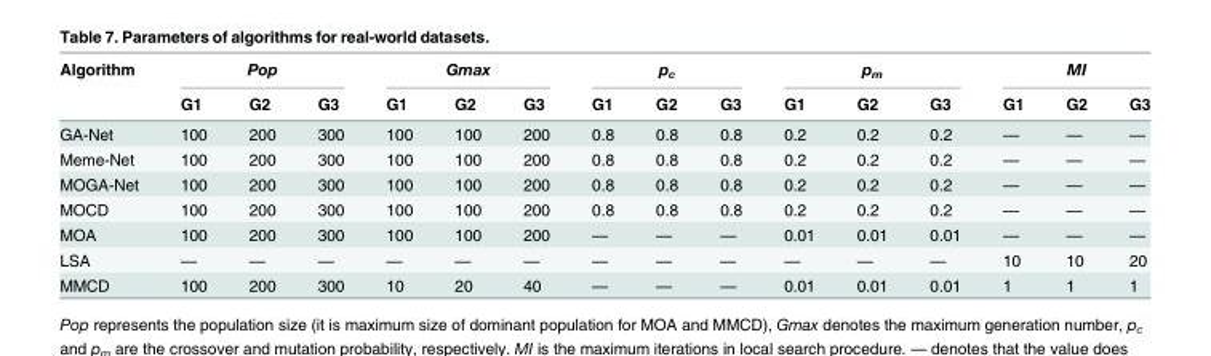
<table><thead><tr><td rowspan="2">Algorithm</td><td colspan="3">Pop</td><td colspan="3">Gmax</td><td colspan="3">p<sub>c</sub></td><td colspan="3">p<sub>m</sub></td><td colspan="3">MI</td></tr><tr><td>G1</td><td>G2</td><td>G3</td><td>G1</td><td>G2</td><td>G3</td><td>G1</td><td>G2</td><td>G3</td><td>G1</td><td>G2</td><td>G3</td><td>G1</td><td>G2</td><td>G3</td></tr></thead><tbody><tr><td>GA-Net</td><td>100</td><td>200</td><td>300</td><td>100</td><td>100</td><td>200</td><td>0.8</td><td>0.8</td><td>0.8</td><td>0.2</td><td>0.2</td><td>0.2</td><td>—</td><td>—</td><td>—</td></tr><tr><td>Meme-Net</td><td>100</td><td>200</td><td>300</td><td>100</td><td>100</td><td>200</td><td>0.8</td><td>0.8</td><td>0.8</td><td>0.2</td><td>0.2</td><td>0.2</td><td>—</td><td>—</td><td>—</td></tr><tr><td>MOGA-Net</td><td>100</td><td>200</td><td>300</td><td>100</td><td>100</td><td>200</td><td>0.8</td><td>0.8</td><td>0.8</td><td>0.2</td><td>0.2</td><td>0.2</td><td>—</td><td>—</td><td>—</td></tr><tr><td>MOCD</td><td>100</td><td>200</td><td>300</td><td>100</td><td>100</td><td>200</td><td>0.8</td><td>0.8</td><td>0.8</td><td>0.2</td><td>0.2</td><td>0.2</td><td>—</td><td>—</td><td>—</td></tr><tr><td>MOA</td><td>100</td><td>200</td><td>300</td><td>100</td><td>100</td><td>200</td><td>—</td><td>—</td><td>—</td><td>0.01</td><td>0.01</td><td>0.01</td><td>—</td><td>—</td><td>—</td></tr><tr><td>LSA</td><td>—</td><td>—</td><td>—</td><td>—</td><td>—</td><td>—</td><td>—</td><td>—</td><td>—</td><td>—</td><td>—</td><td>—</td><td>10</td><td>10</td><td>20</td></tr><tr><td>MMCD</td><td>100</td><td>200</td><td>300</td><td>10</td><td>20</td><td>40</td><td>—</td><td>—</td><td>—</td><td>0.01</td><td>0.01</td><td>0.01</td><td>1</td><td>1</td><td>1</td></tr></tbody></table>